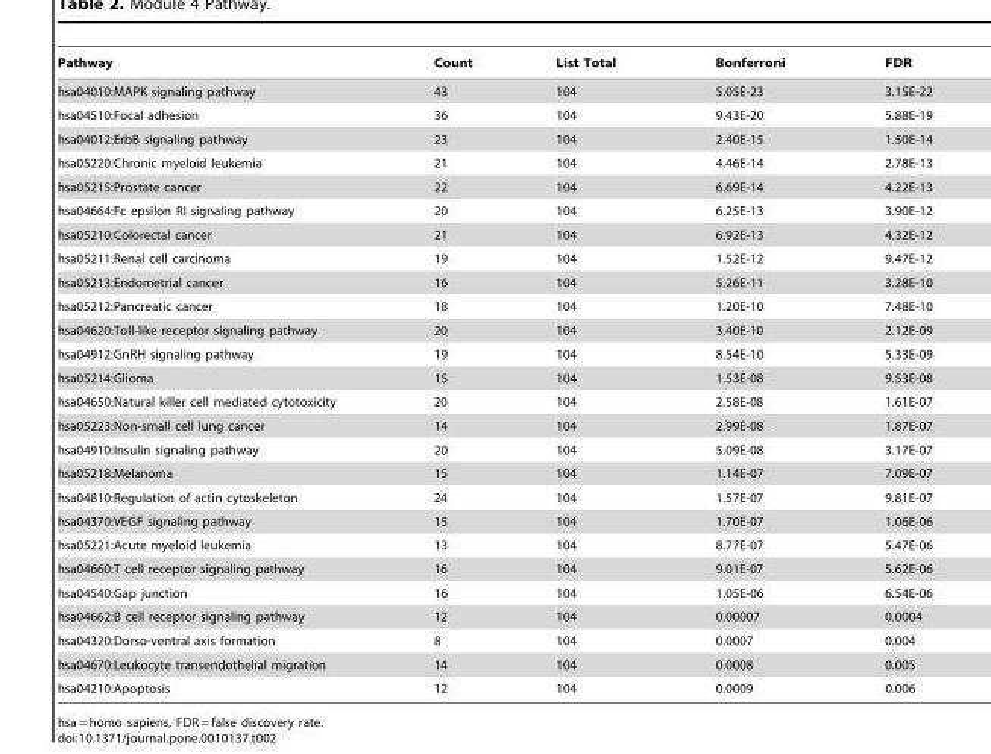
<table><thead><tr><td>Pathway</td><td>Count</td><td>List Total</td><td>Bonferroni</td><td>FDR</td></tr></thead><tbody><tr><td>hsa04010:MAPK signaling pathway</td><td>43</td><td>104</td><td>5.05E-23</td><td>3.15E-22</td></tr><tr><td>hsa04510:Focal adhesion</td><td>36</td><td>104</td><td>9.43E-20</td><td>5.88E-19</td></tr><tr><td>hsa04012:ErbB signaling pathway</td><td>23</td><td>104</td><td>2.40E-15</td><td>1.50E-14</td></tr><tr><td>hsa05220:Chronic myeloid leukemia</td><td>21</td><td>104</td><td>4.46E-14</td><td>2.78E-13</td></tr><tr><td>hsa05215:Prostate cancer</td><td>22</td><td>104</td><td>6.69E-14</td><td>4.22E-13</td></tr><tr><td>hsa04664:Fc epsilon RI signaling pathway</td><td>20</td><td>104</td><td>6.25E-13</td><td>3.90E-12</td></tr><tr><td>hsa05210:Colorectal cancer</td><td>21</td><td>104</td><td>6.92E-13</td><td>4.32E-12</td></tr><tr><td>hsa05211:Renal cell carcinoma</td><td>19</td><td>104</td><td>1.52E-12</td><td>9.47E-12</td></tr><tr><td>hsa05213:Endometrial cancer</td><td>16</td><td>104</td><td>5.26E-11</td><td>3.28E-10</td></tr><tr><td>hsa05212:Pancreatic cancer</td><td>18</td><td>104</td><td>1.20E-10</td><td>7.48E-10</td></tr><tr><td>hsa04620:Toll-like receptor signaling pathway</td><td>20</td><td>104</td><td>3.40E-10</td><td>2.12E-09</td></tr><tr><td>hsa04912:GnRH signaling pathway</td><td>19</td><td>104</td><td>8.54E-10</td><td>5.33E-09</td></tr><tr><td>hsa05214:Glioma</td><td>15</td><td>104</td><td>1.53E-08</td><td>9.53E-08</td></tr><tr><td>hsa04650:Natural killer cell mediated cytotoxicity</td><td>20</td><td>104</td><td>2.58E-08</td><td>1.61E-07</td></tr><tr><td>hsa05223:Non-small cell lung cancer</td><td>14</td><td>104</td><td>2.99E-08</td><td>1.87E-07</td></tr><tr><td>hsa04910:Insulin signaling pathway</td><td>20</td><td>104</td><td>5.09E-08</td><td>3.17E-07</td></tr><tr><td>hsa05218:Melanoma</td><td>15</td><td>104</td><td>1.14E-07</td><td>7.09E-07</td></tr><tr><td>hsa04810:Regulation of actin cytoskeleton</td><td>24</td><td>104</td><td>1.57E-07</td><td>9.81E-07</td></tr><tr><td>hsa04370:VEGF signaling pathway</td><td>15</td><td>104</td><td>1.70E-07</td><td>1.06E-06</td></tr><tr><td>hsa05221:Acute myeloid leukemia</td><td>13</td><td>104</td><td>8.77E-07</td><td>5.47E-06</td></tr><tr><td>hsa04660:T cell receptor signaling pathway</td><td>16</td><td>104</td><td>9.01E-07</td><td>5.62E-06</td></tr><tr><td>hsa04540:Gap junction</td><td>16</td><td>104</td><td>1.05E-06</td><td>6.54E-06</td></tr><tr><td>hsa04662:B cell receptor signaling pathway</td><td>12</td><td>104</td><td>0.00007</td><td>0.0004</td></tr><tr><td>hsa04320:Dorso-ventral axis formation</td><td>8</td><td>104</td><td>0.0007</td><td>0.004</td></tr><tr><td>hsa04670:Leukocyte transendothelial migration</td><td>14</td><td>104</td><td>0.0008</td><td>0.005</td></tr><tr><td>hsa04210:Apoptosis</td><td>12</td><td>104</td><td>0.0009</td><td>0.006</td></tr></tbody></table>